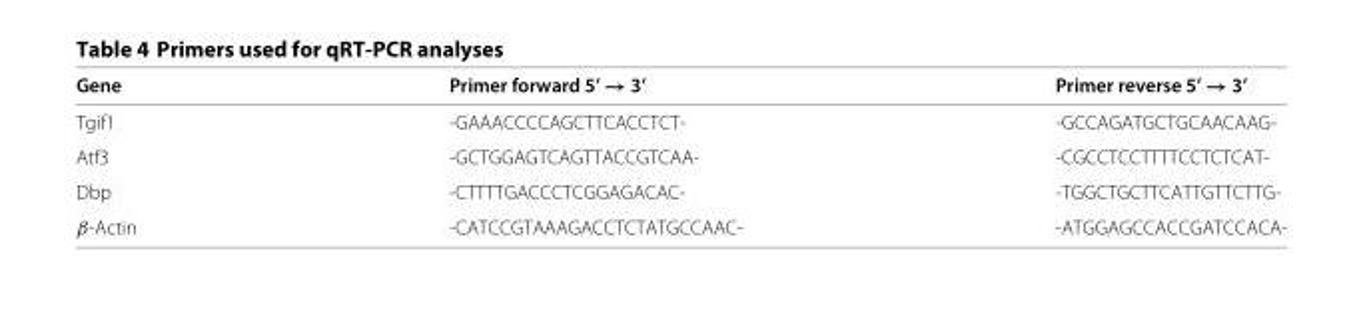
<table><thead><tr><td>Gene</td><td>Primer forward 5’ → 3’</td><td>Primer reverse 5’ → 3’</td></tr></thead><tbody><tr><td>Tgif1</td><td>-GAAACCCCAGCTTCACCTCT-</td><td>-GCCAGATGCTGCAACAAG-</td></tr><tr><td>Atf3</td><td>-GCTGGAGTCAGTTACCGTCAA-</td><td>-CGCCTCCTTTTCCTCTCAT-</td></tr><tr><td>Dbp</td><td>-CTTTTGACCCTCGGAGACAC-</td><td>-TGGCTGCTTCATTGTTCTTG-</td></tr><tr><td>β-Actin</td><td>-CATCCGTAAAGACCTCTATGCCAAC-</td><td>-ATGGAGCCACCGATCCACA-</td></tr></tbody></table>